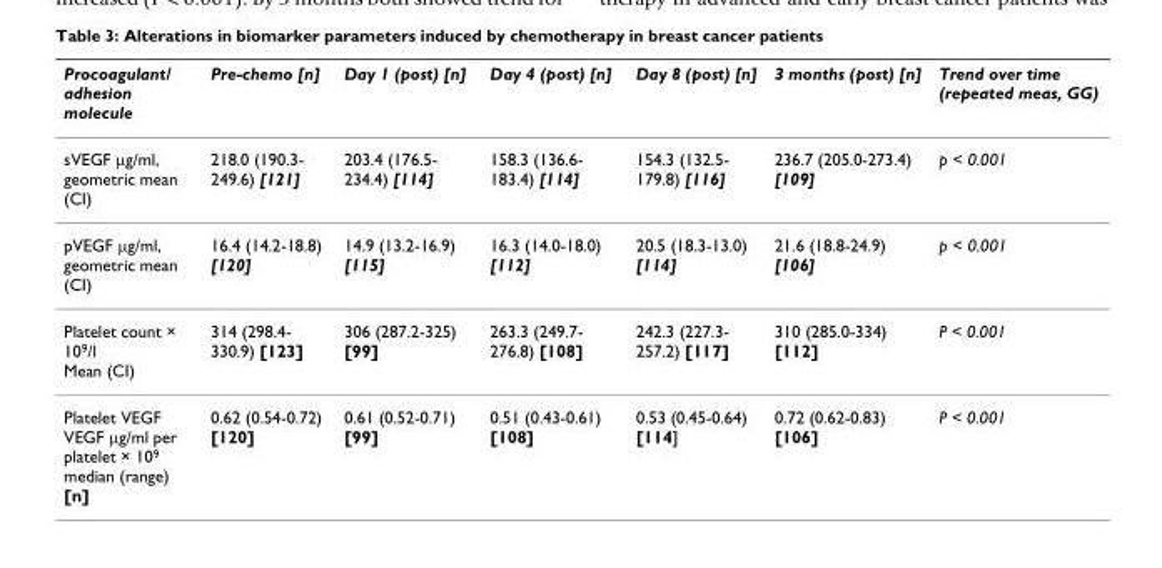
<table><thead><tr><td>Procoagulant/ adhesion molecule</td><td>Pre-chemo [n]</td><td>Day 1 (post) [n]</td><td>Day 4 (post) [n]</td><td>Day 8 (post) [n]</td><td>3 months (post) [n]</td><td>Trend over time (repeated meas, GG)</td></tr></thead><tbody><tr><td>sVEGF μg/ml, geometric mean (CI)</td><td>218.0 (190.3- 249.6) [121]</td><td>203.4 (176.5- 234.4) [114]</td><td>158.3 (136.6- 183.4) [114]</td><td>154.3 (132.5- 179.8) [116]</td><td>236.7 (205.0-273.4) [109]</td><td>p &lt; 0.001</td></tr><tr><td>pVEGF μg/ml, geometric mean (CI)</td><td>16.4 (14.2-18.8) [120]</td><td>14.9 (13.2-16.9) [115]</td><td>16.3 (14.0-18.0) [112]</td><td>20.5 (18.3-13.0) [114]</td><td>21.6 (18.8-24.9) [106]</td><td>p &lt; 0.001</td></tr><tr><td>Platelet count × 10<sup>9</sup>/l Mean (CI)</td><td>314 (298.4- 330.9) [123]</td><td>306 (287.2-325) [99]</td><td>263.3 (249.7- 276.8) [108]</td><td>242.3 (227.3- 257.2) [117]</td><td>310 (285.0-334) [112]</td><td>P &lt; 0.001</td></tr><tr><td>Platelet VEGF VEGF μg/ml per platelet × 10<sup>9</sup> median (range) [n]</td><td>0.62 (0.54-0.72) [120]</td><td>0.61 (0.52-0.71) [99]</td><td>0.51 (0.43-0.61) [108]</td><td>0.53 (0.45-0.64) [114]</td><td>0.72 (0.62-0.83) [106]</td><td>P &lt; 0.001</td></tr></tbody></table>